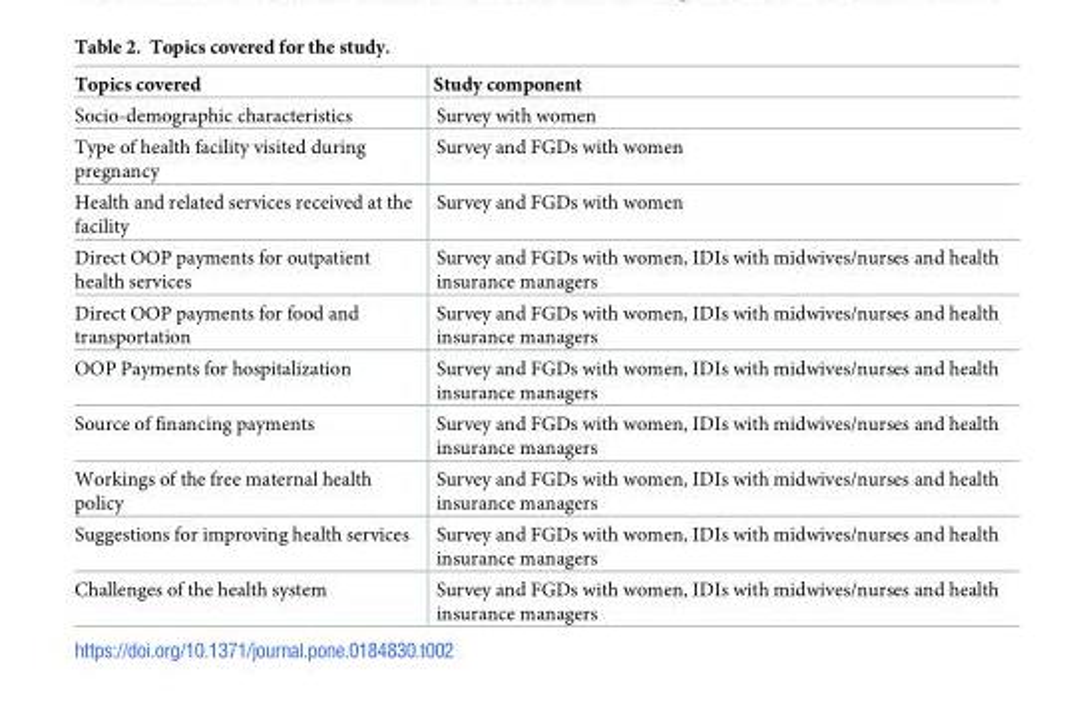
<table><thead><tr><td>Topics covered</td><td>Study component</td></tr></thead><tbody><tr><td>Socio-demographic characteristics</td><td>Survey with women</td></tr><tr><td>Type of health facility visited during pregnancy</td><td>Survey and FGDs with women</td></tr><tr><td>Health and related services received at the facility</td><td>Survey and FGDs with women</td></tr><tr><td>Direct OOP payments for outpatient health services</td><td>Survey and FGDs with women, IDIs with midwives/nurses and health insurance managers</td></tr><tr><td>Direct OOP payments for food and transportation</td><td>Survey and FGDs with women, IDIs with midwives/nurses and health insurance managers</td></tr><tr><td>OOP Payments for hospitalization</td><td>Survey and FGDs with women, IDIs with midwives/nurses and health insurance managers</td></tr><tr><td>Source of financing payments</td><td>Survey and FGDs with women, IDIs with midwives/nurses and health insurance managers</td></tr><tr><td>Workings of the free maternal health policy</td><td>Survey and FGDs with women, IDIs with midwives/nurses and health insurance managers</td></tr><tr><td>Suggestions for improving health services</td><td>Survey and FGDs with women, IDIs with midwives/nurses and health insurance managers</td></tr><tr><td>Challenges of the health system</td><td>Survey and FGDs with women, IDIs with midwives/nurses and health insurance managers</td></tr></tbody></table>